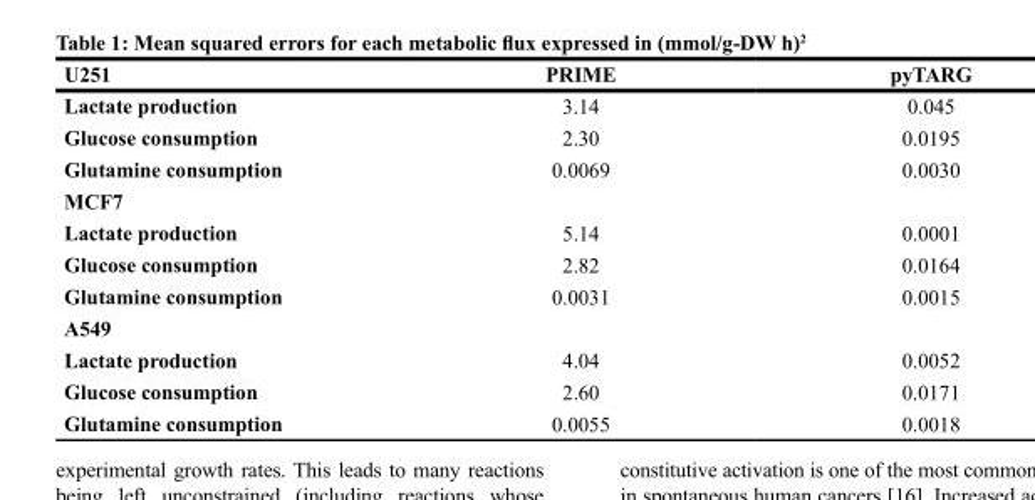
<table><thead><tr><td>U251</td><td>PRIME</td><td>pyTARG</td></tr></thead><tbody><tr><td>Lactate production</td><td>3.14</td><td>0.045</td></tr><tr><td>Glucose consumption</td><td>2.30</td><td>0.0195</td></tr><tr><td>Glutamine consumption</td><td>0.0069</td><td>0.0030</td></tr><tr><td colspan="3">MCF7</td></tr><tr><td>Lactate production</td><td>5.14</td><td>0.0001</td></tr><tr><td>Glucose consumption</td><td>2.82</td><td>0.0164</td></tr><tr><td>Glutamine consumption</td><td>0.0031</td><td>0.0015</td></tr><tr><td colspan="3">A549</td></tr><tr><td>Lactate production</td><td>4.04</td><td>0.0052</td></tr><tr><td>Glucose consumption</td><td>2.60</td><td>0.0171</td></tr><tr><td>Glutamine consumption</td><td>0.0055</td><td>0.0018</td></tr></tbody></table>